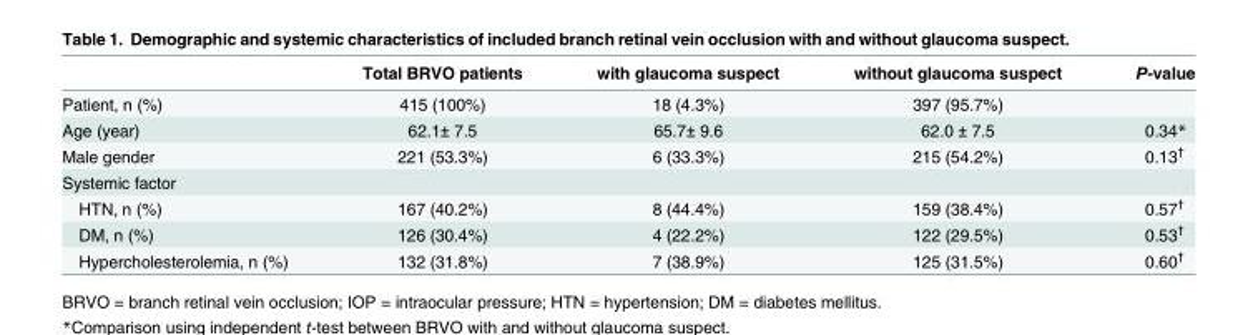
<table><thead><tr><td></td><td>Total BRVO patients</td><td>with glaucoma suspect</td><td>without glaucoma suspect</td><td>P-value</td></tr></thead><tbody><tr><td>Patient, n (%)</td><td>415 (100%)</td><td>18 (4.3%)</td><td>397 (95.7%)</td><td></td></tr><tr><td>Age (year)</td><td>62.1± 7.5</td><td>65.7± 9.6</td><td>62.0 ± 7.5</td><td>0.34*</td></tr><tr><td>Male gender</td><td>221 (53.3%)</td><td>6 (33.3%)</td><td>215 (54.2%)</td><td>0.13<sup>†</sup></td></tr><tr><td colspan="5">Systemic factor</td></tr><tr><td>HTN, n (%)</td><td>167 (40.2%)</td><td>8 (44.4%)</td><td>159 (38.4%)</td><td>0.57<sup>†</sup></td></tr><tr><td>DM, n (%)</td><td>126 (30.4%)</td><td>4 (22.2%)</td><td>122 (29.5%)</td><td>0.53<sup>†</sup></td></tr><tr><td>Hypercholesterolemia, n (%)</td><td>132 (31.8%)</td><td>7 (38.9%)</td><td>125 (31.5%)</td><td>0.60<sup>†</sup></td></tr></tbody></table>